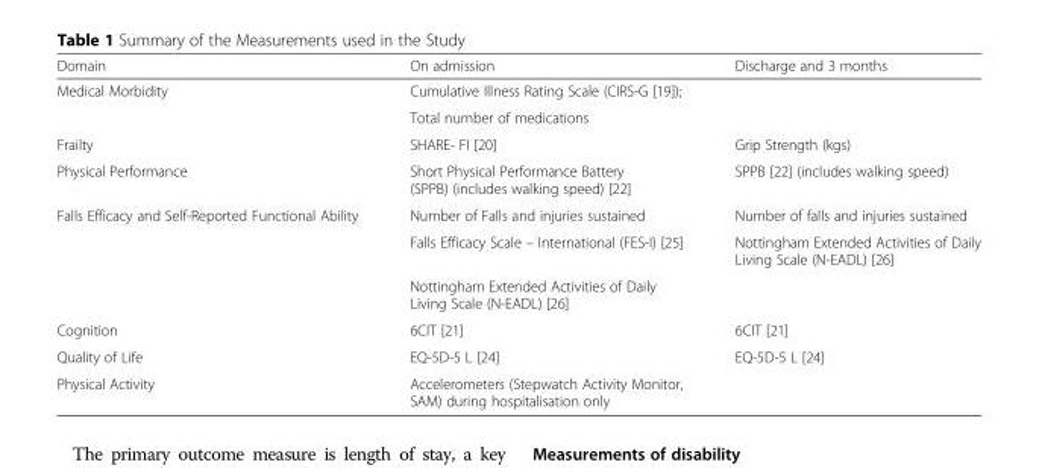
<table><thead><tr><td>Domain</td><td>On admission</td><td>Discharge and 3 months</td></tr></thead><tbody><tr><td rowspan="2">Medical Morbidity</td><td>Cumulative Illness Rating Scale (CIRS-G [19]);</td><td rowspan="2"></td></tr><tr><td>Total number of medications</td></tr><tr><td>Frailty</td><td>SHARE- FI [20]</td><td>Grip Strength (kgs)</td></tr><tr><td>Physical Performance</td><td>Short Physical Performance Battery (SPPB) (includes walking speed) [22]</td><td>SPPB [22] (includes walking speed)</td></tr><tr><td rowspan="3">Falls Efficacy and Self-Reported Functional Ability</td><td>Number of Falls and injuries sustained</td><td>Number of falls and injuries sustained</td></tr><tr><td>Falls Efficacy Scale – International (FES-I) [25]</td><td>Nottingham Extended Activities of Daily Living Scale (N-EADL) [26]</td></tr><tr><td>Nottingham Extended Activities of Daily Living Scale (N-EADL) [26]</td><td></td></tr><tr><td>Cognition</td><td>6CIT [21]</td><td>6CIT [21]</td></tr><tr><td>Quality of Life</td><td>EQ-5D-5 L [24]</td><td>EQ-5D-5 L [24]</td></tr><tr><td>Physical Activity</td><td>Accelerometers (Stepwatch Activity Monitor, SAM) during hospitalisation only</td><td></td></tr></tbody></table>